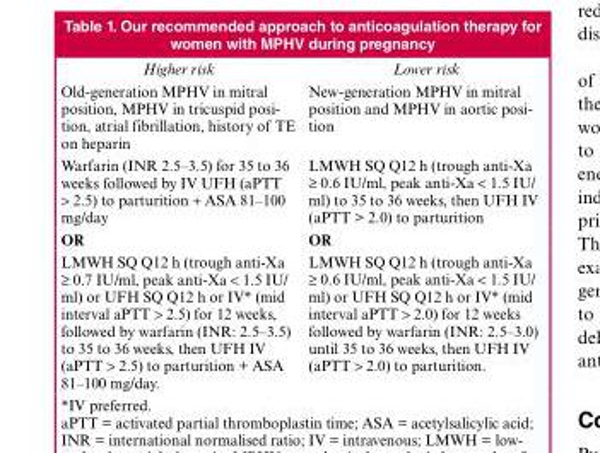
<table><thead><tr><td>Higher risk</td><td>Lower risk</td></tr></thead><tbody><tr><td>Old-generation MPHV in mitral position, MPHV in tricuspid posi- tion, atrial fibrillation, history of TE on heparin</td><td>New-generation MPHV in mitral position and MPHV in aortic posi- tion</td></tr><tr><td>Warfarin (INR 2.5–3.5) for 35 to 36 weeks followed by IV UFH (aPTT &gt; 2.5) to parturition + ASA 81–100 mg/day</td><td>LMWH SQ Q12 h (trough anti-Xa ≥ 0.6 IU/ml, peak anti-Xa &lt; 1.5 IU/ ml) to 35 to 36 weeks, then UFH IV (aPTT &gt; 2.0) to parturition</td></tr><tr><td>OR</td><td>OR</td></tr><tr><td>LMWH SQ Q12 h (trough anti-Xa ≥ 0.7 IU/ml, peak anti-Xa &lt; 1.5 IU/ ml) or UFH SQ Q12 h or IV* (mid interval aPTT &gt; 2.5) for 12 weeks, followed by warfarin (INR: 2.5–3.5) to 35 to 36 weeks, then UFH IV (aPTT &gt; 2.5) to parturition + ASA 81–100 mg/day.</td><td>LMWH SQ Q12 h (trough anti-Xa ≥ 0.6 IU/ml, peak anti-Xa &lt; 1.5 IU/ ml) or UFH SQ Q12 h or IV* (mid interval aPTT &gt; 2.0) for 12 weeks followed by warfarin (INR: 2.5–3.0) until 35 to 36 weeks, then UFH IV (aPTT &gt; 2.0) to parturition.</td></tr></tbody></table>